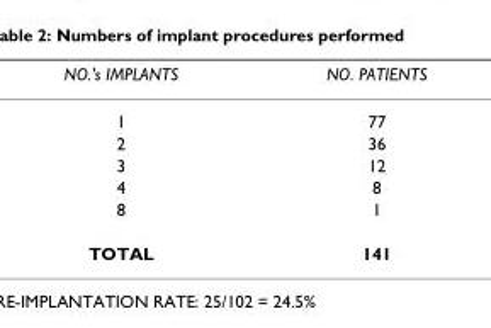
<table><thead><tr><td>NO.&#x27;s IMPLANTS</td><td>NO. PATIENTS</td></tr></thead><tbody><tr><td>1</td><td>77</td></tr><tr><td>2</td><td>36</td></tr><tr><td>3</td><td>12</td></tr><tr><td>4</td><td>8</td></tr><tr><td>8</td><td>1</td></tr><tr><td>TOTAL</td><td>141</td></tr></tbody></table>